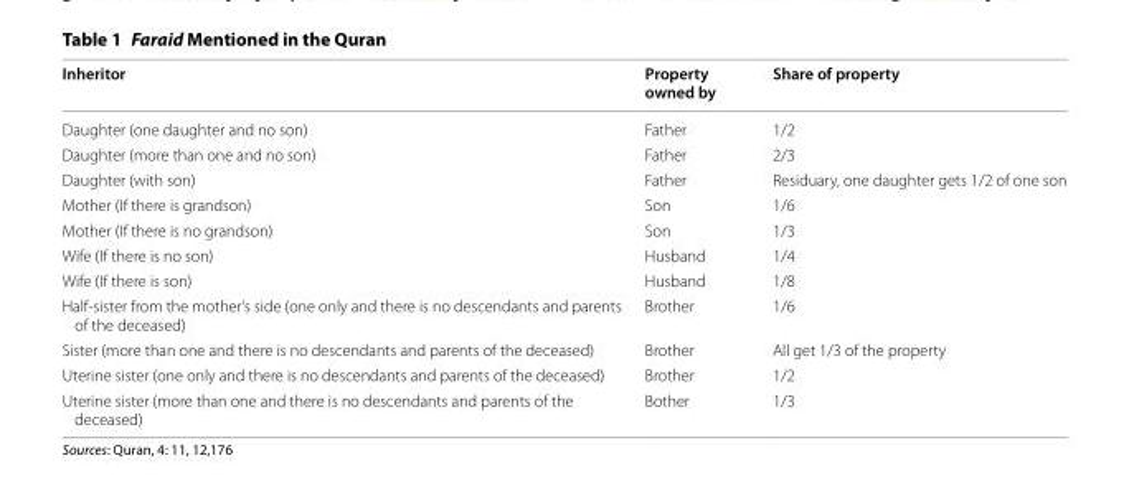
<table><thead><tr><td>Inheritor</td><td>Property owned by</td><td>Share of property</td></tr></thead><tbody><tr><td>Daughter (one daughter and no son)</td><td>Father</td><td>1/2</td></tr><tr><td>Daughter (more than one and no son)</td><td>Father</td><td>2/3</td></tr><tr><td>Daughter (with son)</td><td>Father</td><td>Residuary, one daughter gets 1/2 of one son</td></tr><tr><td>Mother (If there is grandson)</td><td>Son</td><td>1/6</td></tr><tr><td>Mother (If there is no grandson)</td><td>Son</td><td>1/3</td></tr><tr><td>Wife (If there is no son)</td><td>Husband</td><td>1/4</td></tr><tr><td>Wife (If there is son)</td><td>Husband</td><td>1/8</td></tr><tr><td>Half-sister from the mother’s side (one only and there is no descendants and parents of the deceased)</td><td>Brother</td><td>1/6</td></tr><tr><td>Sister (more than one and there is no descendants and parents of the deceased)</td><td>Brother</td><td>All get 1/3 of the property</td></tr><tr><td>Uterine sister (one only and there is no descendants and parents of the deceased)</td><td>Brother</td><td>1/2</td></tr><tr><td>Uterine sister (more than one and there is no descendants and parents of the deceased)</td><td>Bother</td><td>1/3</td></tr></tbody></table>